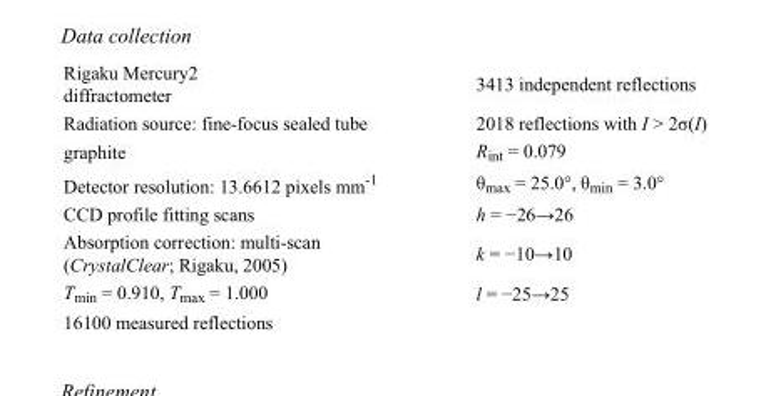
<table><tbody><tr><td>Rigaku Mercury2 diffractometer</td><td>3413 independent reflections</td></tr><tr><td>Radiation source: fine-focus sealed tube</td><td>2018 reflections with I &gt; 2σ(I)</td></tr><tr><td>graphite</td><td>R<sub>int</sub> = 0.079</td></tr><tr><td>Detector resolution: 13.6612 pixels mm<sup>-1</sup></td><td>θ<sub>max</sub> = 25.0°, θ<sub>min</sub> = 3.0°</td></tr><tr><td>CCD profile fitting scans</td><td>h = −26→26</td></tr><tr><td>Absorption correction: multi-scan (CrystalClear; Rigaku, 2005)</td><td>k = −10→10</td></tr><tr><td>T<sub>min</sub> = 0.910, T<sub>max</sub> = 1.000</td><td>l = −25→25</td></tr><tr><td>16100 measured reflections</td><td></td></tr></tbody></table>